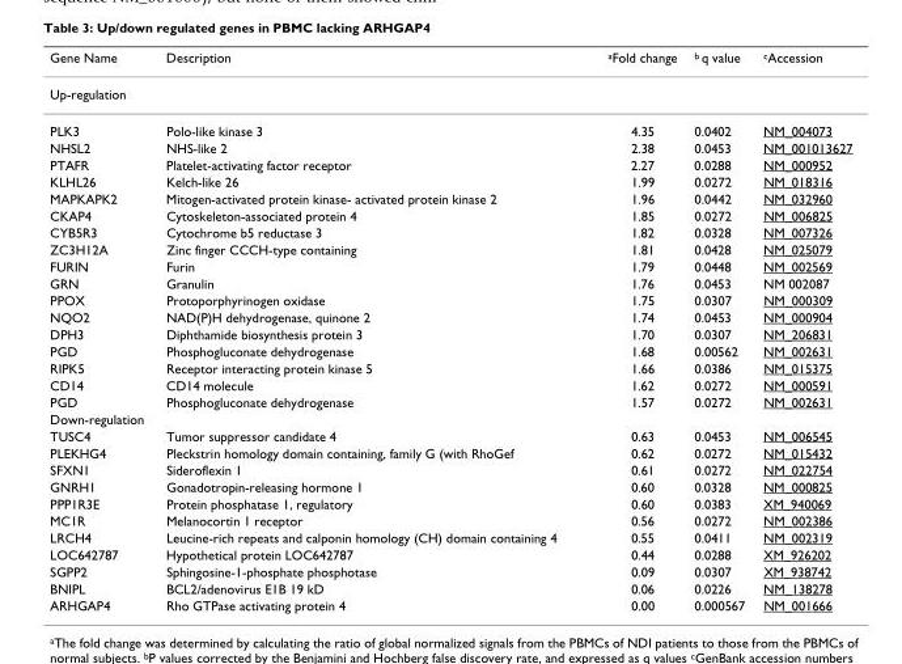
<table><thead><tr><td>Gene Name</td><td>Description</td><td><sup>a</sup>Fold change</td><td><sup>b</sup> q value</td><td><sup>c</sup>Accession</td></tr></thead><tbody><tr><td colspan="5">Up-regulation</td></tr><tr><td>PLK3</td><td>Polo-like kinase 3</td><td>4.35</td><td>0.0402</td><td>NM_004073</td></tr><tr><td>NHSL2</td><td>NHS-like 2</td><td>2.38</td><td>0.0453</td><td>NM_001013627</td></tr><tr><td>PTAFR</td><td>Platelet-activating factor receptor</td><td>2.27</td><td>0.0288</td><td>NM_000952</td></tr><tr><td>KLHL26</td><td>Kelch-like 26</td><td>1.99</td><td>0.0272</td><td>NM_018316</td></tr><tr><td>MAPKAPK2</td><td>Mitogen-activated protein kinase- activated protein kinase 2</td><td>1.96</td><td>0.0442</td><td>NM_032960</td></tr><tr><td>CKAP4</td><td>Cytoskeleton-associated protein 4</td><td>1.85</td><td>0.0272</td><td>NM_006825</td></tr><tr><td>CYB5R3</td><td>Cytochrome b5 reductase 3</td><td>1.82</td><td>0.0328</td><td>NM_007326</td></tr><tr><td>ZC3H12A</td><td>Zinc finger CCCH-type containing</td><td>1.81</td><td>0.0428</td><td>NM_025079</td></tr><tr><td>FURIN</td><td>Furin</td><td>1.79</td><td>0.0448</td><td>NM_002569</td></tr><tr><td>GRN</td><td>Granulin</td><td>1.76</td><td>0.0453</td><td>NM 002087</td></tr><tr><td>PPOX</td><td>Protoporphyrinogen oxidase</td><td>1.75</td><td>0.0307</td><td>NM_000309</td></tr><tr><td>NQO2</td><td>NAD(P)H dehydrogenase, quinone 2</td><td>1.74</td><td>0.0453</td><td>NM_000904</td></tr><tr><td>DPH3</td><td>Diphthamide biosynthesis protein 3</td><td>1.70</td><td>0.0307</td><td>NM_206831</td></tr><tr><td>PGD</td><td>Phosphogluconate dehydrogenase</td><td>1.68</td><td>0.00562</td><td>NM_002631</td></tr><tr><td>RIPK5</td><td>Receptor interacting protein kinase 5</td><td>1.66</td><td>0.0386</td><td>NM_015375</td></tr><tr><td>CD14</td><td>CD14 molecule</td><td>1.62</td><td>0.0272</td><td>NM_000591</td></tr><tr><td>PGD</td><td>Phosphogluconate dehydrogenase</td><td>1.57</td><td>0.0272</td><td>NM_002631</td></tr><tr><td colspan="5">Down-regulation</td></tr><tr><td>TUSC4</td><td>Tumor suppressor candidate 4</td><td>0.63</td><td>0.0453</td><td>NM_006545</td></tr><tr><td>PLEKHG4</td><td>Pleckstrin homology domain containing, family G (with RhoGef</td><td>0.62</td><td>0.0272</td><td>NM_015432</td></tr><tr><td>SFXN1</td><td>Sideroflexin 1</td><td>0.61</td><td>0.0272</td><td>NM_022754</td></tr><tr><td>GNRH1</td><td>Gonadotropin-releasing hormone 1</td><td>0.60</td><td>0.0328</td><td>NM_000825</td></tr><tr><td>PPP1R3E</td><td>Protein phosphatase 1, regulatory</td><td>0.60</td><td>0.0383</td><td>XM_940069</td></tr><tr><td>MC1R</td><td>Melanocortin 1 receptor</td><td>0.56</td><td>0.0272</td><td>NM_002386</td></tr><tr><td>LRCH4</td><td>Leucine-rich repeats and calponin homology (CH) domain containing 4</td><td>0.55</td><td>0.0411</td><td>NM_002319</td></tr><tr><td>LOC642787</td><td>Hypothetical protein LOC642787</td><td>0.44</td><td>0.0288</td><td>XM_926202</td></tr><tr><td>SGPP2</td><td>Sphingosine-1-phosphate phosphotase</td><td>0.09</td><td>0.0307</td><td>XM_938742</td></tr><tr><td>BNIPL</td><td>BCL2/adenovirus E1B 19 kD</td><td>0.06</td><td>0.0226</td><td>NM_138278</td></tr><tr><td>ARHGAP4</td><td>Rho GTPase activating protein 4</td><td>0.00</td><td>0.000567</td><td>NM_001666</td></tr></tbody></table>